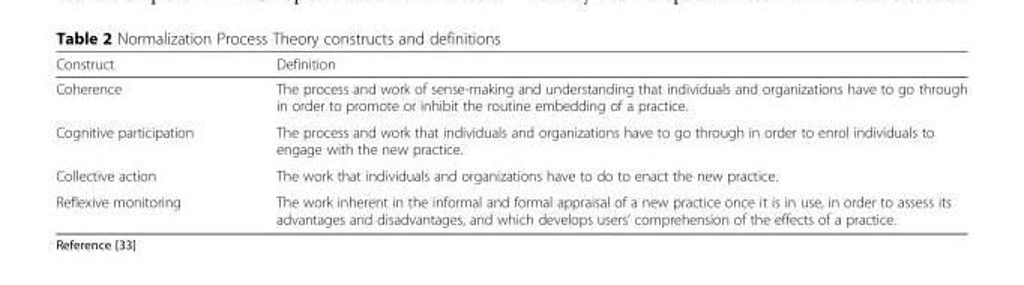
<table><thead><tr><td>Construct</td><td>Definition</td></tr></thead><tbody><tr><td>Coherence</td><td>The process and work of sense-making and understanding that individuals and organizations have to go through in order to promote or inhibit the routine embedding of a practice.</td></tr><tr><td>Cognitive participation</td><td>The process and work that individuals and organizations have to go through in order to enrol individuals to engage with the new practice.</td></tr><tr><td>Collective action</td><td>The work that individuals and organizations have to do to enact the new practice.</td></tr><tr><td>Reflexive monitoring</td><td>The work inherent in the informal and formal appraisal of a new practice once it is in use, in order to assess its advantages and disadvantages, and which develops users’ comprehension of the effects of a practice.</td></tr></tbody></table>